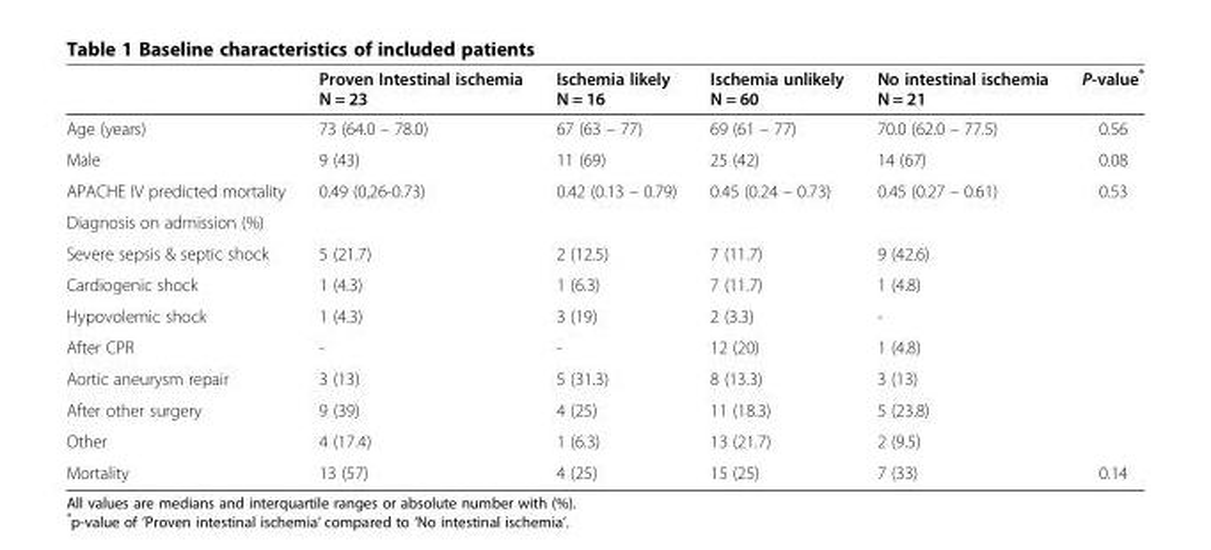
<table><thead><tr><td></td><td>Proven Intestinal ischemia N = 23</td><td>Ischemia likely N = 16</td><td>Ischemia unlikely N = 60</td><td>No intestinal ischemia N = 21</td><td>P-value*</td></tr></thead><tbody><tr><td>Age (years)</td><td>73 (64.0 – 78.0)</td><td>67 (63 – 77)</td><td>69 (61 – 77)</td><td>70.0 (62.0 – 77.5)</td><td>0.56</td></tr><tr><td>Male</td><td>9 (43)</td><td>11 (69)</td><td>25 (42)</td><td>14 (67)</td><td>0.08</td></tr><tr><td>APACHE IV predicted mortality</td><td>0.49 (0,26-0.73)</td><td>0.42 (0.13 – 0.79)</td><td>0.45 (0.24 – 0.73)</td><td>0.45 (0.27 – 0.61)</td><td>0.53</td></tr><tr><td colspan="6">Diagnosis on admission (%)</td></tr><tr><td>Severe sepsis &amp; septic shock</td><td>5 (21.7)</td><td>2 (12.5)</td><td>7 (11.7)</td><td>9 (42.6)</td><td></td></tr><tr><td>Cardiogenic shock</td><td>1 (4.3)</td><td>1 (6.3)</td><td>7 (11.7)</td><td>1 (4.8)</td><td></td></tr><tr><td>Hypovolemic shock</td><td>1 (4.3)</td><td>3 (19)</td><td>2 (3.3)</td><td>-</td><td></td></tr><tr><td>After CPR</td><td>-</td><td>-</td><td>12 (20)</td><td>1 (4.8)</td><td></td></tr><tr><td>Aortic aneurysm repair</td><td>3 (13)</td><td>5 (31.3)</td><td>8 (13.3)</td><td>3 (13)</td><td></td></tr><tr><td>After other surgery</td><td>9 (39)</td><td>4 (25)</td><td>11 (18.3)</td><td>5 (23.8)</td><td></td></tr><tr><td>Other</td><td>4 (17.4)</td><td>1 (6.3)</td><td>13 (21.7)</td><td>2 (9.5)</td><td></td></tr><tr><td>Mortality</td><td>13 (57)</td><td>4 (25)</td><td>15 (25)</td><td>7 (33)</td><td>0.14</td></tr></tbody></table>